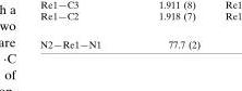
<table><tbody><tr><td>N2—Re1—N1</td><td>77.7 (2)</td></tr></tbody></table>